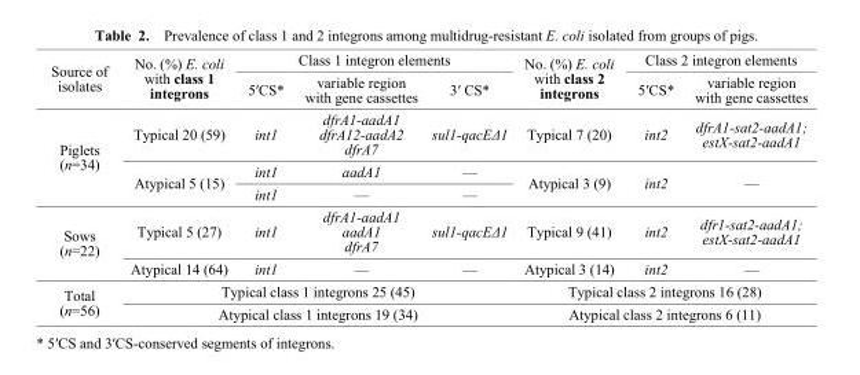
<table><thead><tr><td rowspan="2">Source of isolates</td><td rowspan="2">No. (%) E. coli with class 1 integrons</td><td colspan="3">Class 1 integron elements</td><td rowspan="2">No. (%) E. coli with class 2 integrons</td><td colspan="2">Class 2 integron elements</td></tr><tr><td>5ʹCS*</td><td>variable region with gene cassettes</td><td>3ʹ CS*</td><td>5ʹCS*</td><td>variable region with gene cassettes</td></tr></thead><tbody><tr><td rowspan="3">Piglets (n=34)</td><td>Typical 20 (59)</td><td>int1</td><td>dfrA1-aadA1 dfrA12-aadA2 dfrA7</td><td>sul1-qacEΔ1</td><td>Typical 7 (20)</td><td>int2</td><td>dfrA1-sat2-aadA1; estX-sat2-aadA1</td></tr><tr><td rowspan="2">Atypical 5 (15)</td><td>int1</td><td>aadA1</td><td>—</td><td rowspan="2">Atypical 3 (9)</td><td rowspan="2">int2</td><td rowspan="2">—</td></tr><tr><td>int1</td><td>—</td><td>—</td></tr><tr><td rowspan="2">Sows (n=22)</td><td>Typical 5 (27)</td><td>int1</td><td>dfrA1-aadA1 aadA1 dfrA7</td><td>sul1-qacEΔ1</td><td>Typical 9 (41)</td><td>int2</td><td>dfr1-sat2-aadA1; estX-sat2-aadA1</td></tr><tr><td>Atypical 14 (64)</td><td>int1</td><td>—</td><td>—</td><td>Atypical 3 (14)</td><td>int2</td><td>—</td></tr><tr><td rowspan="2">Total (n=56)</td><td colspan="4">Typical class 1 integrons 25 (45)</td><td colspan="3">Typical class 2 integrons 16 (28)</td></tr><tr><td colspan="4">Atypical class 1 integrons 19 (34)</td><td colspan="3">Atypical class 2 integrons 6 (11)</td></tr></tbody></table>